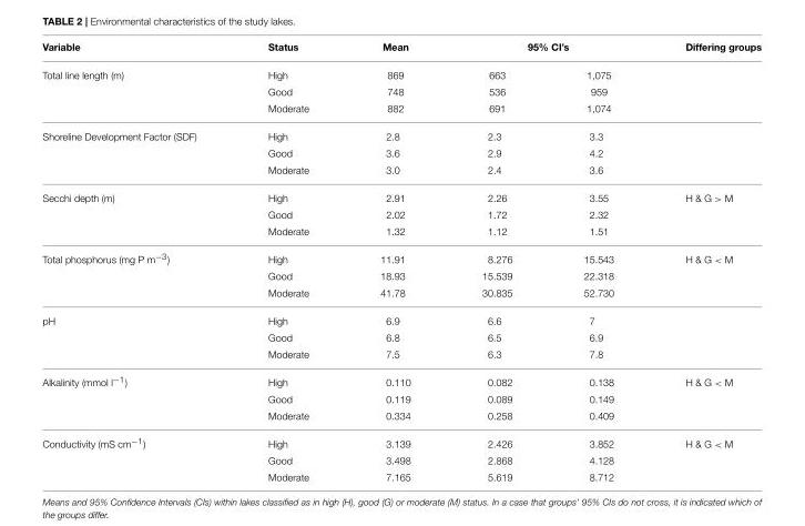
<table><thead><tr><td rowspan="2">Variable Total line length (m)</td><td rowspan="2">Status High</td><td rowspan="2">Mean 869</td><td colspan="2">95% CI’s</td><td rowspan="2">Differing groups</td></tr><tr><td>663</td><td>1,075</td></tr></thead><tbody><tr><td></td><td>Good</td><td>748</td><td>536</td><td>959</td><td></td></tr><tr><td></td><td>Moderate</td><td>882</td><td>691</td><td>1,074</td><td></td></tr><tr><td rowspan="3">Shoreline Development Factor (SDF)</td><td>High</td><td>2.8</td><td>2.3</td><td>3.3</td><td></td></tr><tr><td>Good</td><td>3.6</td><td>2.9</td><td>4.2</td><td></td></tr><tr><td>Moderate</td><td>3.0</td><td>2.4</td><td>3.6</td><td></td></tr><tr><td rowspan="3">Secchi depth (m)</td><td>High</td><td>2.91</td><td>2.26</td><td>3.55</td><td>H &amp; G &gt; M</td></tr><tr><td>Good</td><td>2.02</td><td>1.72</td><td>2.32</td><td></td></tr><tr><td>Moderate</td><td>1.32</td><td>1.12</td><td>1.51</td><td></td></tr><tr><td rowspan="3">Total phosphorus (mg P m<sup>−3</sup>)</td><td>High</td><td>11.91</td><td>8.276</td><td>15.543</td><td>H &amp; G &lt; M</td></tr><tr><td>Good</td><td>18.93</td><td>15.539</td><td>22.318</td><td></td></tr><tr><td>Moderate</td><td>41.78</td><td>30.835</td><td>52.730</td><td></td></tr><tr><td rowspan="3">pH</td><td>High</td><td>6.9</td><td>6.6</td><td>7</td><td></td></tr><tr><td>Good</td><td>6.8</td><td>6.5</td><td>6.9</td><td></td></tr><tr><td>Moderate</td><td>7.5</td><td>6.3</td><td>7.8</td><td></td></tr><tr><td rowspan="3">Alkalinity (mmol l<sup>−1</sup>)</td><td>High</td><td>0.110</td><td>0.082</td><td>0.138</td><td>H &amp; G &lt; M</td></tr><tr><td>Good</td><td>0.119</td><td>0.089</td><td>0.149</td><td></td></tr><tr><td>Moderate</td><td>0.334</td><td>0.258</td><td>0.409</td><td></td></tr><tr><td rowspan="3">Conductivity (mS cm<sup>−1</sup>)</td><td>High</td><td>3.139</td><td>2.426</td><td>3.852</td><td>H &amp; G &lt; M</td></tr><tr><td>Good</td><td>3.498</td><td>2.868</td><td>4.128</td><td></td></tr><tr><td>Moderate</td><td>7.165</td><td>5.619</td><td>8.712</td><td></td></tr></tbody></table>